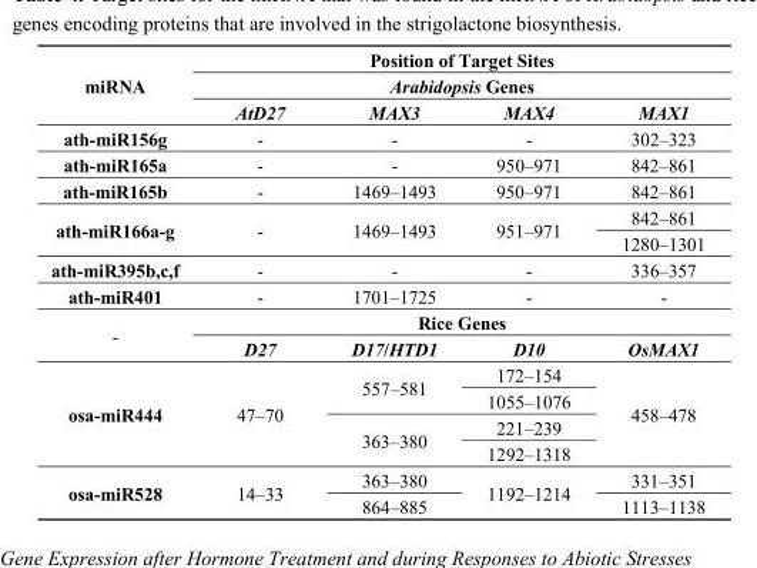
<table><thead><tr><td rowspan="3">miRNA</td><td rowspan="2" colspan="4">Position of Target Sites Arabidopsis Genes</td></tr><tr></tr><tr><td>AtD27</td><td>MAX3</td><td>MAX4</td><td>MAX1</td></tr></thead><tbody><tr><td>ath-miR156g</td><td>-</td><td>-</td><td>-</td><td>302–323</td></tr><tr><td>ath-miR165a</td><td>-</td><td>-</td><td>950–971</td><td>842–861</td></tr><tr><td>ath-miR165b</td><td>-</td><td>1469–1493</td><td>950–971</td><td>842–861</td></tr><tr><td rowspan="2">ath-miR166a-g</td><td rowspan="2">-</td><td rowspan="2">1469–1493</td><td rowspan="2">951–971</td><td>842–861</td></tr><tr><td>1280–1301</td></tr><tr><td>ath-miR395b,c,f</td><td>-</td><td>-</td><td>-</td><td>336–357</td></tr><tr><td>ath-miR401</td><td>-</td><td>1701–1725</td><td>-</td><td>-</td></tr><tr><td rowspan="2">-</td><td colspan="4">Rice Genes</td></tr><tr><td>D27</td><td>D17/HTD1</td><td>D10</td><td>OsMAX1</td></tr><tr><td rowspan="4">osa-miR444</td><td rowspan="4">47–70</td><td rowspan="2">557–581</td><td>172–154</td><td rowspan="4">458–478</td></tr><tr><td>1055–1076</td></tr><tr><td rowspan="2">363–380</td><td>221–239</td></tr><tr><td>1292–1318</td></tr><tr><td rowspan="2">osa-miR528</td><td rowspan="2">14–33</td><td>363–380</td><td rowspan="2">1192–1214</td><td>331–351</td></tr><tr><td>864–885</td><td>1113–1138</td></tr></tbody></table>